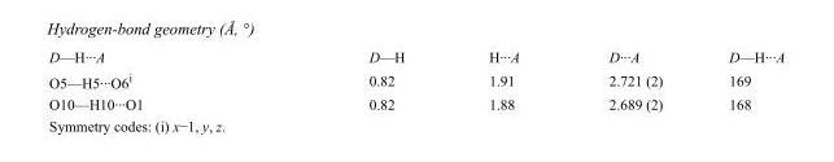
<table><tbody><tr><td>D—H···A</td><td>D—H</td><td>H···A</td><td>D···A</td><td>D—H···A</td></tr><tr><td>O5—H5···O6<sup>i</sup></td><td>0.82</td><td>1.91</td><td>2.721 (2)</td><td>169</td></tr><tr><td>O10—H10···O1</td><td>0.82</td><td>1.88</td><td>2.689 (2)</td><td>168</td></tr></tbody></table>